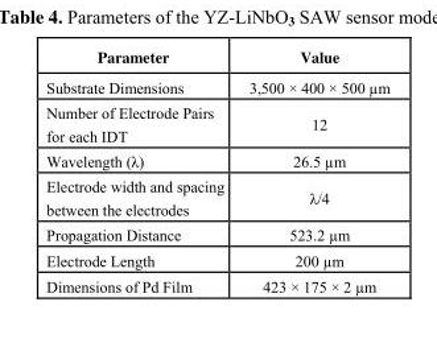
<table><thead><tr><td>Parameter</td><td>Value</td></tr></thead><tbody><tr><td>Substrate Dimensions</td><td>3,500 × 400 × 500 µm</td></tr><tr><td>Number of Electrode Pairs for each IDT</td><td>12</td></tr><tr><td>Wavelength (λ)</td><td>26.5 µm</td></tr><tr><td>Electrode width and spacing between the electrodes</td><td>λ/4</td></tr><tr><td>Propagation Distance</td><td>523.2 µm</td></tr><tr><td>Electrode Length</td><td>200 µm</td></tr><tr><td>Dimensions of Pd Film</td><td>423 × 175 × 2 µm</td></tr></tbody></table>